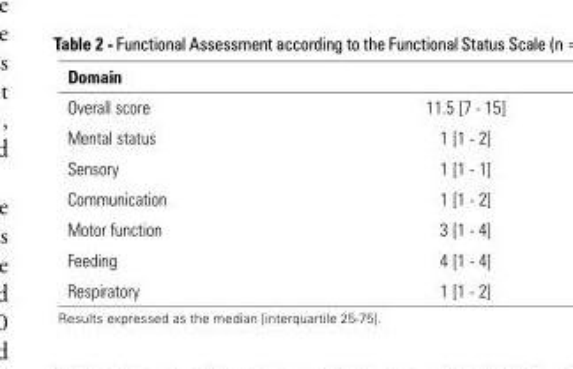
<table><thead><tr><td>Domain</td><td></td></tr></thead><tbody><tr><td>Overall score</td><td>11.5 [7 - 15]</td></tr><tr><td>Mental status</td><td>1 [1 - 2]</td></tr><tr><td>Sensory</td><td>1 [1 - 1]</td></tr><tr><td>Communication</td><td>1 [1 - 2]</td></tr><tr><td>Motor function</td><td>3 [1 - 4]</td></tr><tr><td>Feeding</td><td>4 [1 - 4]</td></tr><tr><td>Respiratory</td><td>1 [1 - 2]</td></tr></tbody></table>